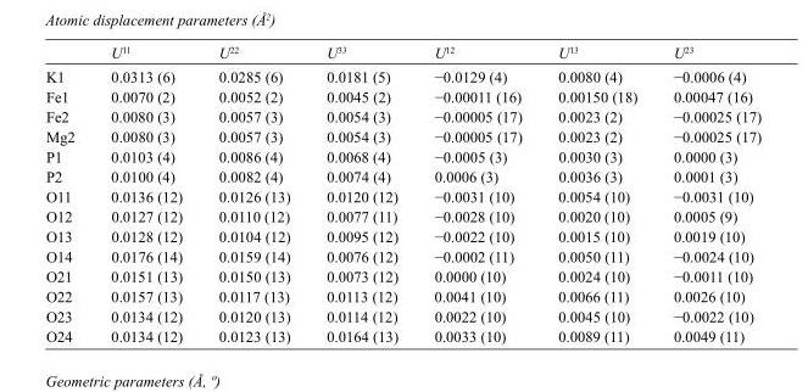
<table><thead><tr><td></td><td>U<sup>11</sup></td><td>U<sup>22</sup></td><td>U<sup>33</sup></td><td>U<sup>12</sup></td><td>U<sup>13</sup></td><td>U<sup>23</sup></td></tr></thead><tbody><tr><td>K1</td><td>0.0313 (6)</td><td>0.0285 (6)</td><td>0.0181 (5)</td><td>−0.0129 (4)</td><td>0.0080 (4)</td><td>−0.0006 (4)</td></tr><tr><td>Fe1</td><td>0.0070 (2)</td><td>0.0052 (2)</td><td>0.0045 (2)</td><td>−0.00011 (16)</td><td>0.00150 (18)</td><td>0.00047 (16)</td></tr><tr><td>Fe2</td><td>0.0080 (3)</td><td>0.0057 (3)</td><td>0.0054 (3)</td><td>−0.00005 (17)</td><td>0.0023 (2)</td><td>−0.00025 (17)</td></tr><tr><td>Mg2</td><td>0.0080 (3)</td><td>0.0057 (3)</td><td>0.0054 (3)</td><td>−0.00005 (17)</td><td>0.0023 (2)</td><td>−0.00025 (17)</td></tr><tr><td>P1</td><td>0.0103 (4)</td><td>0.0086 (4)</td><td>0.0068 (4)</td><td>−0.0005 (3)</td><td>0.0030 (3)</td><td>0.0000 (3)</td></tr><tr><td>P2</td><td>0.0100 (4)</td><td>0.0082 (4)</td><td>0.0074 (4)</td><td>0.0006 (3)</td><td>0.0036 (3)</td><td>0.0001 (3)</td></tr><tr><td>O11</td><td>0.0136 (12)</td><td>0.0126 (13)</td><td>0.0120 (12)</td><td>−0.0031 (10)</td><td>0.0054 (10)</td><td>−0.0031 (10)</td></tr><tr><td>O12</td><td>0.0127 (12)</td><td>0.0110 (12)</td><td>0.0077 (11)</td><td>−0.0028 (10)</td><td>0.0020 (10)</td><td>0.0005 (9)</td></tr><tr><td>O13</td><td>0.0128 (12)</td><td>0.0104 (12)</td><td>0.0095 (12)</td><td>−0.0022 (10)</td><td>0.0015 (10)</td><td>0.0019 (10)</td></tr><tr><td>O14</td><td>0.0176 (14)</td><td>0.0159 (14)</td><td>0.0076 (12)</td><td>−0.0002 (11)</td><td>0.0050 (11)</td><td>−0.0024 (10)</td></tr><tr><td>O21</td><td>0.0151 (13)</td><td>0.0150 (13)</td><td>0.0073 (12)</td><td>0.0000 (10)</td><td>0.0024 (10)</td><td>−0.0011 (10)</td></tr><tr><td>O22</td><td>0.0157 (13)</td><td>0.0117 (13)</td><td>0.0113 (12)</td><td>0.0041 (10)</td><td>0.0066 (11)</td><td>0.0026 (10)</td></tr><tr><td>O23</td><td>0.0134 (12)</td><td>0.0120 (13)</td><td>0.0114 (12)</td><td>0.0022 (10)</td><td>0.0045 (10)</td><td>−0.0022 (10)</td></tr><tr><td>O24</td><td>0.0134 (12)</td><td>0.0123 (13)</td><td>0.0164 (13)</td><td>0.0033 (10)</td><td>0.0089 (11)</td><td>0.0049 (11)</td></tr></tbody></table>